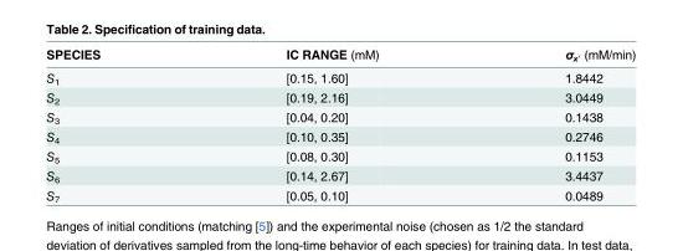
<table><thead><tr><td>SPECIES</td><td>IC RANGE (mM)</td><td>σ<sub>x</sub><sup><sub>′</sub></sup> (mM/min)</td></tr></thead><tbody><tr><td>S<sub>1</sub></td><td>[0.15, 1.60]</td><td>1.8442</td></tr><tr><td>S<sub>2</sub></td><td>[0.19, 2.16]</td><td>3.0449</td></tr><tr><td>S<sub>3</sub></td><td>[0.04, 0.20]</td><td>0.1438</td></tr><tr><td>S<sub>4</sub></td><td>[0.10, 0.35]</td><td>0.2746</td></tr><tr><td>S<sub>5</sub></td><td>[0.08, 0.30]</td><td>0.1153</td></tr><tr><td>S<sub>6</sub></td><td>[0.14, 2.67]</td><td>3.4437</td></tr><tr><td>S<sub>7</sub></td><td>[0.05, 0.10]</td><td>0.0489</td></tr></tbody></table>